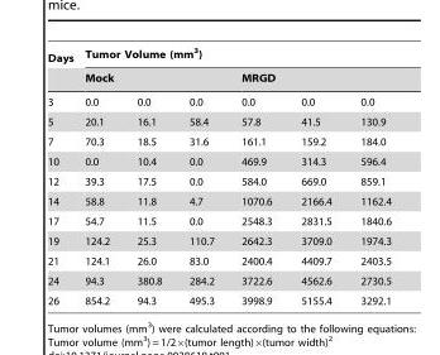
<table><thead><tr><td rowspan="3">Days 3</td><td colspan="6">Tumor Volume (mm<sup>3</sup>)</td></tr><tr><td colspan="3">Mock</td><td colspan="3">MRGD</td></tr><tr><td>0.0</td><td>0.0</td><td>0.0</td><td>0.0</td><td>0.0</td><td>0.0</td></tr></thead><tbody><tr><td>5</td><td>20.1</td><td>16.1</td><td>58.4</td><td>57.8</td><td>41.5</td><td>130.9</td></tr><tr><td>7</td><td>70.3</td><td>18.5</td><td>31.6</td><td>161.1</td><td>159.2</td><td>184.0</td></tr><tr><td>10</td><td>0.0</td><td>10.4</td><td>0.0</td><td>469.9</td><td>314.3</td><td>596.4</td></tr><tr><td>12</td><td>39.3</td><td>17.5</td><td>0.0</td><td>584.0</td><td>669.0</td><td>859.1</td></tr><tr><td>14</td><td>58.8</td><td>11.8</td><td>4.7</td><td>1070.6</td><td>2166.4</td><td>1162.4</td></tr><tr><td>17</td><td>54.7</td><td>11.5</td><td>0.0</td><td>2548.3</td><td>2831.5</td><td>1840.6</td></tr><tr><td>19</td><td>124.2</td><td>25.3</td><td>110.7</td><td>2642.3</td><td>3709.0</td><td>1974.3</td></tr><tr><td>21</td><td>124.1</td><td>26.0</td><td>83.0</td><td>2400.4</td><td>4409.7</td><td>2403.5</td></tr><tr><td>24</td><td>94.3</td><td>380.8</td><td>284.2</td><td>3722.6</td><td>4562.6</td><td>2730.5</td></tr><tr><td>26</td><td>854.2</td><td>94.3</td><td>495.3</td><td>3998.9</td><td>5155.4</td><td>3292.1</td></tr></tbody></table>